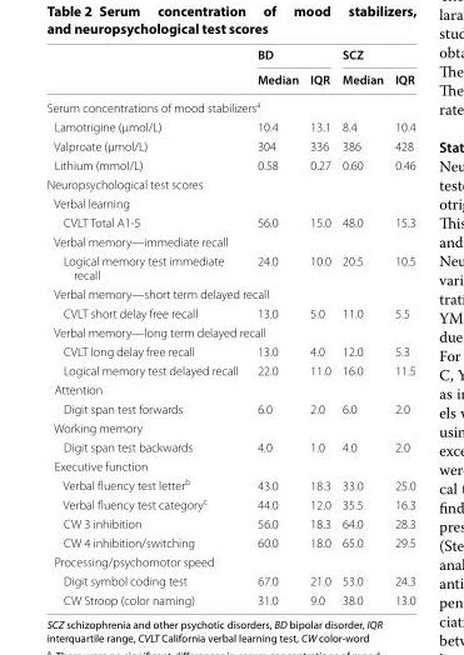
<table><thead><tr><td rowspan="2"></td><td colspan="2">BD</td><td colspan="2">SCZ</td></tr><tr><td>Median</td><td>IQR</td><td>Median</td><td>IQR</td></tr></thead><tbody><tr><td colspan="5">Serum concentrations of mood stabilizers<sup>a</sup></td></tr><tr><td>Lamotrigine (µmol/L)</td><td>10.4</td><td>13.1</td><td>8.4</td><td>10.4</td></tr><tr><td>Valproate (µmol/L)</td><td>304</td><td>336</td><td>386</td><td>428</td></tr><tr><td>Lithium (mmol/L)</td><td>0.58</td><td>0.27</td><td>0.60</td><td>0.46</td></tr><tr><td colspan="5">Neuropsychological test scores</td></tr><tr><td colspan="5">Verbal learning</td></tr><tr><td>CVLT Total A1-5</td><td>56.0</td><td>15.0</td><td>48.0</td><td>15.3</td></tr><tr><td colspan="5">Verbal memory—immediate recall</td></tr><tr><td>Logical memory test immediate recall</td><td>24.0</td><td>10.0</td><td>20.5</td><td>10.5</td></tr><tr><td colspan="5">Verbal memory—short term delayed recall</td></tr><tr><td>CVLT short delay free recall</td><td>13.0</td><td>5.0</td><td>11.0</td><td>5.5</td></tr><tr><td colspan="5">Verbal memory—long term delayed recall</td></tr><tr><td>CVLT long delay free recall</td><td>13.0</td><td>4.0</td><td>12.0</td><td>5.3</td></tr><tr><td>Logical memory test delayed recall</td><td>22.0</td><td>11.0</td><td>16.0</td><td>11.5</td></tr><tr><td colspan="5">Attention</td></tr><tr><td>Digit span test forwards</td><td>6.0</td><td>2.0</td><td>6.0</td><td>2.0</td></tr><tr><td colspan="5">Working memory</td></tr><tr><td>Digit span test backwards</td><td>4.0</td><td>1.0</td><td>4.0</td><td>2.0</td></tr><tr><td colspan="5">Executive function</td></tr><tr><td>Verbal fluency test letter<sup>b</sup></td><td>43.0</td><td>18.3</td><td>33.0</td><td>25.0</td></tr><tr><td>Verbal fluency test category<sup>c</sup></td><td>44.0</td><td>12.0</td><td>35.5</td><td>16.3</td></tr><tr><td>CW 3 inhibition</td><td>56.0</td><td>18.3</td><td>64.0</td><td>28.3</td></tr><tr><td>CW 4 inhibition/switching</td><td>60.0</td><td>18.0</td><td>65.0</td><td>29.5</td></tr><tr><td colspan="5">Processing/psychomotor speed</td></tr><tr><td>Digit symbol coding test</td><td>67.0</td><td>21.0</td><td>53.0</td><td>24.3</td></tr><tr><td>CW Stroop (color naming)</td><td>31.0</td><td>9.0</td><td>38.0</td><td>13.0</td></tr></tbody></table>